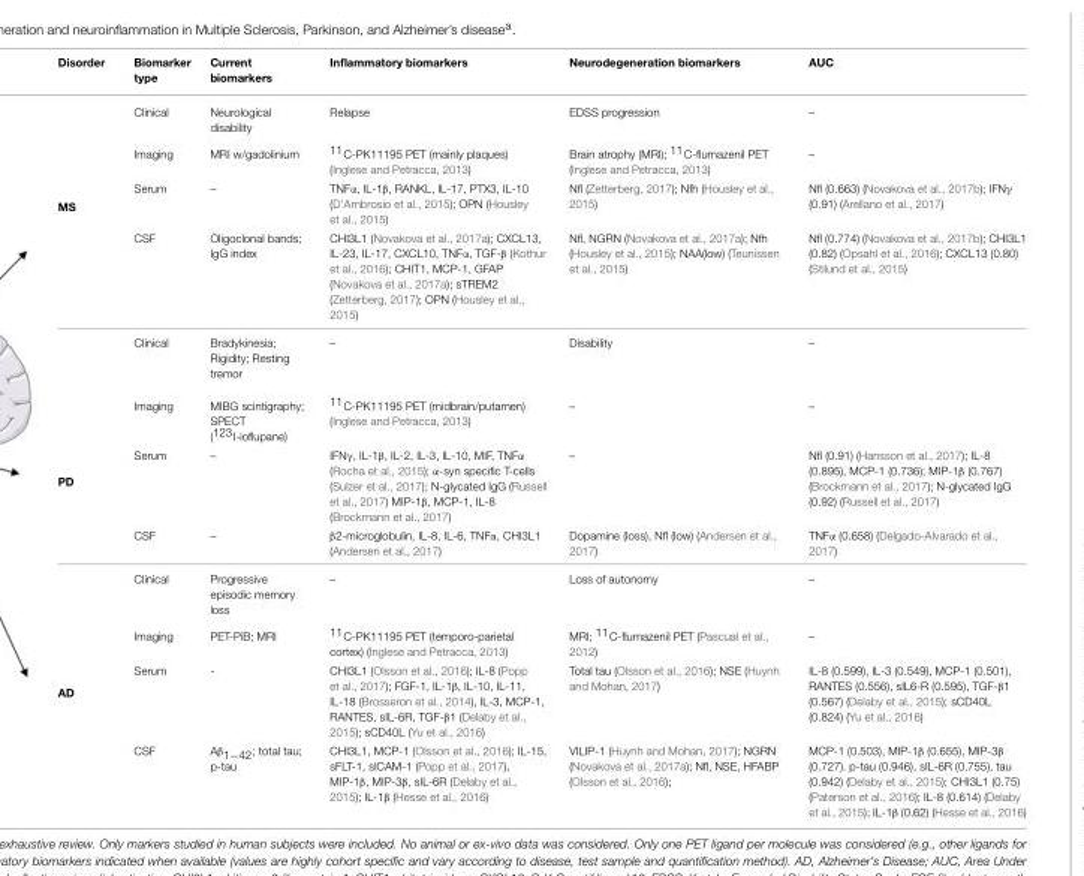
<table><thead><tr><td>Disorder</td><td>Biomarker type</td><td>Current biomarkers</td><td>Inflammatory biomarkers</td><td>Neurodegeneration biomarkers</td><td>AUC</td></tr></thead><tbody><tr><td rowspan="4">MS</td><td>Clinical</td><td>Neurological disability</td><td>Relapse</td><td>EDSS progression</td><td>–</td></tr><tr><td>Imaging</td><td>MRI w/gadolinium</td><td><sup>11</sup>C-PK11195 PET (mainly plaques) (Inglese and Petracca, 2013)</td><td>Brain atrophy (MRI); <sup>11</sup>C-flumazenil PET (Inglese and Petracca, 2013)</td><td>–</td></tr><tr><td>Serum</td><td>–</td><td>TNFα, IL-1β, RANKL, IL-17, PTX3, IL-10 (D’Ambrosio et al., 2015); OPN (Housley et al., 2015)</td><td>Nfl (Zetterberg, 2017); Nfh (Housley et al., 2015)</td><td>Nfl (0.663) (Novakova et al., 2017b); IFNγ (0.91) (Arellano et al., 2017)</td></tr><tr><td>CSF</td><td>Oligoclonal bands; IgG index</td><td>CHI3L1 (Novakova et al., 2017a); CXCL13, IL-23, IL-17, CXCL10, TNFα, TGF-β (Kothur et al., 2016); CHIT1, MCP-1, GFAP (Novakova et al., 2017a); sTREM2 (Zetterberg, 2017); OPN (Housley et al., 2015)</td><td>Nfl, NGRN (Novakova et al., 2017a); Nfh (Housley et al., 2015); NAA(low) (Teunissen et al., 2015)</td><td>Nfl (0.774) (Novakova et al., 2017b); CHI3L1 (0.82) (Opsahl et al., 2016); CXCL13 (0.80) (Stilund et al., 2015)</td></tr><tr><td rowspan="4">PD</td><td>Clinical</td><td>Bradykinesia; Rigidity; Resting tremor</td><td>–</td><td>Disability</td><td>–</td></tr><tr><td>Imaging</td><td>MIBG scintigraphy; SPECT (<sup>123</sup>I-ioflupane)</td><td><sup>11</sup>C-PK11195 PET (midbrain/putamen) (Inglese and Petracca, 2013)</td><td>–</td><td>–</td></tr><tr><td>Serum</td><td>–</td><td>IFNγ, IL-1β, IL-2, IL-3, IL-10, MIF, TNFα (Rocha et al., 2015); α-syn specific T-cells (Sulzer et al., 2017); N-glycated IgG (Russell et al., 2017) MIP-1β, MCP-1, IL-8 (Brockmann et al., 2017)</td><td>–</td><td>Nfl (0.91) (Hansson et al., 2017); IL-8 (0.895), MCP-1 (0.736); MIP-1β (0.767) (Brockmann et al., 2017); N-glycated IgG (0.92) (Russell et al., 2017)</td></tr><tr><td>CSF</td><td>–</td><td>β2-microglobulin, IL-8, IL-6, TNFα, CHI3L1 (Andersen et al., 2017)</td><td>Dopamine (loss), Nfl (low) (Andersen et al., 2017)</td><td>TNFα (0.658) (Delgado-Alvarado et al., 2017)</td></tr><tr><td rowspan="4">AD</td><td>Clinical</td><td>Progressive episodic memory loss</td><td>–</td><td>Loss of autonomy</td><td>–</td></tr><tr><td>Imaging</td><td>PET-PiB; MRI</td><td><sup>11</sup>C-PK11195 PET (temporo-parietal cortex) (Inglese and Petracca, 2013)</td><td>MRI; <sup>11</sup>C-flumazenil PET (Pascual et al., 2012)</td><td>–</td></tr><tr><td>Serum</td><td>-</td><td>CHI3L1 (Olsson et al., 2016); IL-8 (Popp et al., 2017); FGF-1, IL-1β, IL-10, IL-11, IL-18 (Brosseron et al., 2014), IL-3, MCP-1, RANTES, sIL-6R, TGF-β1 (Delaby et al., 2015); sCD40L (Yu et al., 2016)</td><td>Total tau (Olsson et al., 2016); NSE (Huynh and Mohan, 2017)</td><td>IL-8 (0.599), IL-3 (0.549), MCP-1 (0.501), RANTES (0.556), sIL6-R (0.595), TGF-β1 (0.567) (Delaby et al., 2015); sCD40L (0.824) (Yu et al., 2016)</td></tr><tr><td>CSF</td><td>Aβ<sub>1−42</sub>; total tau; p-tau</td><td>CHI3L1, MCP-1 (Olsson et al., 2016); IL-15, sFLT-1, sICAM-1 (Popp et al., 2017), MIP-1β, MIP-3β, sIL-6R (Delaby et al., 2015); IL-1β (Hesse et al., 2016)</td><td>VILIP-1 (Huynh and Mohan, 2017); NGRN (Novakova et al., 2017a); Nfl, NSE, HFABP (Olsson et al., 2016);</td><td>MCP-1 (0.503), MIP-1β (0.655), MIP-3β (0.727). p-tau (0.946), sIL-6R (0.755), tau (0.942) (Delaby et al., 2015); CHI3L1 (0.75) (Paterson et al., 2016); IL-8 (0.614) (Delaby et al., 2015); IL-1β (0.62) (Hesse et al., 2016)</td></tr></tbody></table>